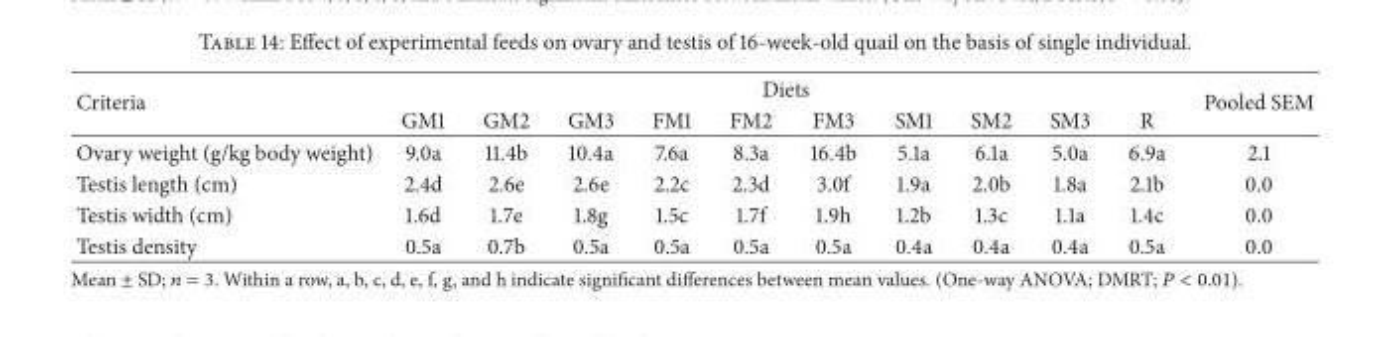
<table><thead><tr><td rowspan="2">Criteria</td><td colspan="10">Diets</td><td rowspan="2">Pooled SEM</td></tr><tr><td>GM1</td><td>GM2</td><td>GM3</td><td>FM1</td><td>FM2</td><td>FM3</td><td>SM1</td><td>SM2</td><td>SM3</td><td>R</td></tr></thead><tbody><tr><td>Ovary weight (g/kg body weight)</td><td>9.0a</td><td>11.4b</td><td>10.4a</td><td>7.6a</td><td>8.3a</td><td>16.4b</td><td>5.1a</td><td>6.1a</td><td>5.0a</td><td>6.9a</td><td>2.1</td></tr><tr><td>Testis length (cm)</td><td>2.4d</td><td>2.6e</td><td>2.6e</td><td>2.2c</td><td>2.3d</td><td>3.0f</td><td>1.9a</td><td>2.0b</td><td>1.8a</td><td>2.1b</td><td>0.0</td></tr><tr><td>Testis width (cm)</td><td>1.6d</td><td>1.7e</td><td>1.8g</td><td>1.5c</td><td>1.7f</td><td>1.9h</td><td>1.2b</td><td>1.3c</td><td>1.1a</td><td>1.4c</td><td>0.0</td></tr><tr><td>Testis density</td><td>0.5a</td><td>0.7b</td><td>0.5a</td><td>0.5a</td><td>0.5a</td><td>0.5a</td><td>0.4a</td><td>0.4a</td><td>0.4a</td><td>0.5a</td><td>0.0</td></tr></tbody></table>